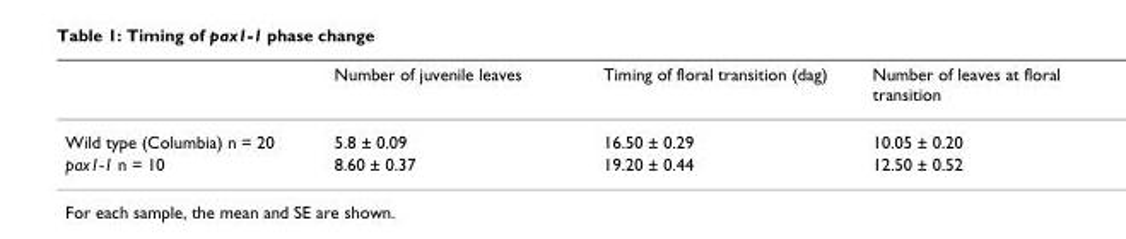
<table><thead><tr><td></td><td>Number of juvenile leaves</td><td>Timing of floral transition (dag)</td><td>Number of leaves at floral transition</td></tr></thead><tbody><tr><td>Wild type (Columbia) n = 20</td><td>5.8 ± 0.09</td><td>16.50 ± 0.29</td><td>10.05 ± 0.20</td></tr><tr><td>pax1-1 n = 10</td><td>8.60 ± 0.37</td><td>19.20 ± 0.44</td><td>12.50 ± 0.52</td></tr></tbody></table>